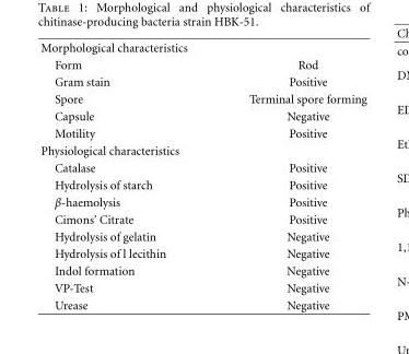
<table><tbody><tr><td colspan="2">Morphological characteristics</td></tr><tr><td>Form</td><td>Rod</td></tr><tr><td>Gram stain</td><td>Positive</td></tr><tr><td>Spore</td><td>Terminal spore forming</td></tr><tr><td>Capsule</td><td>Negative</td></tr><tr><td>Motility</td><td>Positive</td></tr><tr><td colspan="2">Physiological characteristics</td></tr><tr><td>Catalase</td><td>Positive</td></tr><tr><td>Hydrolysis of starch</td><td>Positive</td></tr><tr><td>β-haemolysis</td><td>Positive</td></tr><tr><td>Cimons’ Citrate</td><td>Positive</td></tr><tr><td>Hydrolysis of gelatin</td><td>Negative</td></tr><tr><td>Hydrolysis of l lecithin</td><td>Negative</td></tr><tr><td>Indol formation</td><td>Negative</td></tr><tr><td>VP-Test</td><td>Negative</td></tr><tr><td>Urease</td><td>Negative</td></tr></tbody></table>